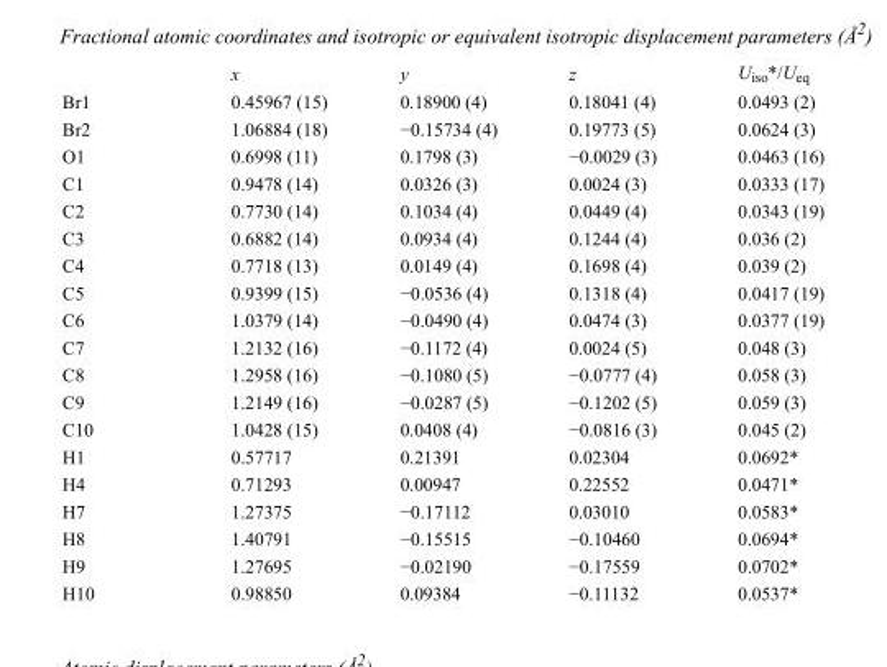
<table><thead><tr><td></td><td>x</td><td>y</td><td>z</td><td>U<sub>iso</sub>*/U<sub>eq</sub></td></tr></thead><tbody><tr><td>Br1</td><td>0.45967 (15)</td><td>0.18900 (4)</td><td>0.18041 (4)</td><td>0.0493 (2)</td></tr><tr><td>Br2</td><td>1.06884 (18)</td><td>−0.15734 (4)</td><td>0.19773 (5)</td><td>0.0624 (3)</td></tr><tr><td>O1</td><td>0.6998 (11)</td><td>0.1798 (3)</td><td>−0.0029 (3)</td><td>0.0463 (16)</td></tr><tr><td>C1</td><td>0.9478 (14)</td><td>0.0326 (3)</td><td>0.0024 (3)</td><td>0.0333 (17)</td></tr><tr><td>C2</td><td>0.7730 (14)</td><td>0.1034 (4)</td><td>0.0449 (4)</td><td>0.0343 (19)</td></tr><tr><td>C3</td><td>0.6882 (14)</td><td>0.0934 (4)</td><td>0.1244 (4)</td><td>0.036 (2)</td></tr><tr><td>C4</td><td>0.7718 (13)</td><td>0.0149 (4)</td><td>0.1698 (4)</td><td>0.039 (2)</td></tr><tr><td>C5</td><td>0.9399 (15)</td><td>−0.0536 (4)</td><td>0.1318 (4)</td><td>0.0417 (19)</td></tr><tr><td>C6</td><td>1.0379 (14)</td><td>−0.0490 (4)</td><td>0.0474 (3)</td><td>0.0377 (19)</td></tr><tr><td>C7</td><td>1.2132 (16)</td><td>−0.1172 (4)</td><td>0.0024 (5)</td><td>0.048 (3)</td></tr><tr><td>C8</td><td>1.2958 (16)</td><td>−0.1080 (5)</td><td>−0.0777 (4)</td><td>0.058 (3)</td></tr><tr><td>C9</td><td>1.2149 (16)</td><td>−0.0287 (5)</td><td>−0.1202 (5)</td><td>0.059 (3)</td></tr><tr><td>C10</td><td>1.0428 (15)</td><td>0.0408 (4)</td><td>−0.0816 (3)</td><td>0.045 (2)</td></tr><tr><td>H1</td><td>0.57717</td><td>0.21391</td><td>0.02304</td><td>0.0692*</td></tr><tr><td>H4</td><td>0.71293</td><td>0.00947</td><td>0.22552</td><td>0.0471*</td></tr><tr><td>H7</td><td>1.27375</td><td>−0.17112</td><td>0.03010</td><td>0.0583*</td></tr><tr><td>H8</td><td>1.40791</td><td>−0.15515</td><td>−0.10460</td><td>0.0694*</td></tr><tr><td>H9</td><td>1.27695</td><td>−0.02190</td><td>−0.17559</td><td>0.0702*</td></tr><tr><td>H10</td><td>0.98850</td><td>0.09384</td><td>−0.11132</td><td>0.0537*</td></tr></tbody></table>